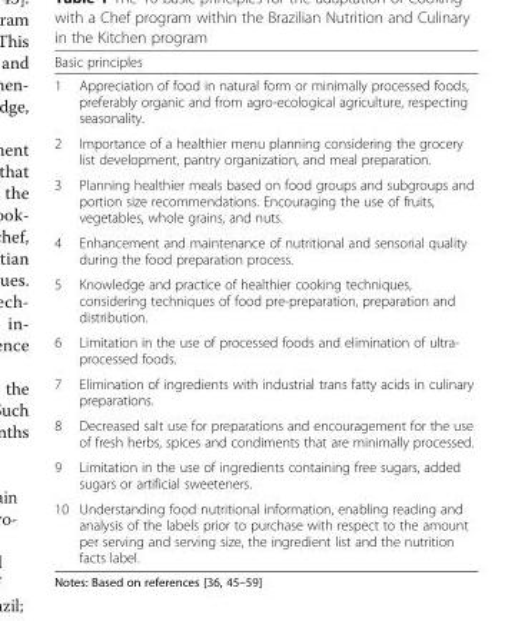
<table><thead><tr><td colspan="2">Basic principles</td></tr><tr><td>1</td><td>Appreciation of food in natural form or minimally processed foods, preferably organic and from agro-ecological agriculture, respecting seasonality.</td></tr></thead><tbody><tr><td>2</td><td>Importance of a healthier menu planning considering the grocery list development, pantry organization, and meal preparation.</td></tr><tr><td>3</td><td>Planning healthier meals based on food groups and subgroups and portion size recommendations. Encouraging the use of fruits, vegetables, whole grains, and nuts.</td></tr><tr><td>4</td><td>Enhancement and maintenance of nutritional and sensorial quality during the food preparation process.</td></tr><tr><td>5</td><td>Knowledge and practice of healthier cooking techniques, considering techniques of food pre-preparation, preparation and distribution.</td></tr><tr><td>6</td><td>Limitation in the use of processed foods and elimination of ultra- processed foods.</td></tr><tr><td>7</td><td>Elimination of ingredients with industrial trans fatty acids in culinary preparations.</td></tr><tr><td>8</td><td>Decreased salt use for preparations and encouragement for the use of fresh herbs, spices and condiments that are minimally processed.</td></tr><tr><td>9</td><td>Limitation in the use of ingredients containing free sugars, added sugars or artificial sweeteners.</td></tr><tr><td>10</td><td>Understanding food nutritional information, enabling reading and analysis of the labels prior to purchase with respect to the amount per serving and serving size, the ingredient list and the nutrition facts label.</td></tr></tbody></table>